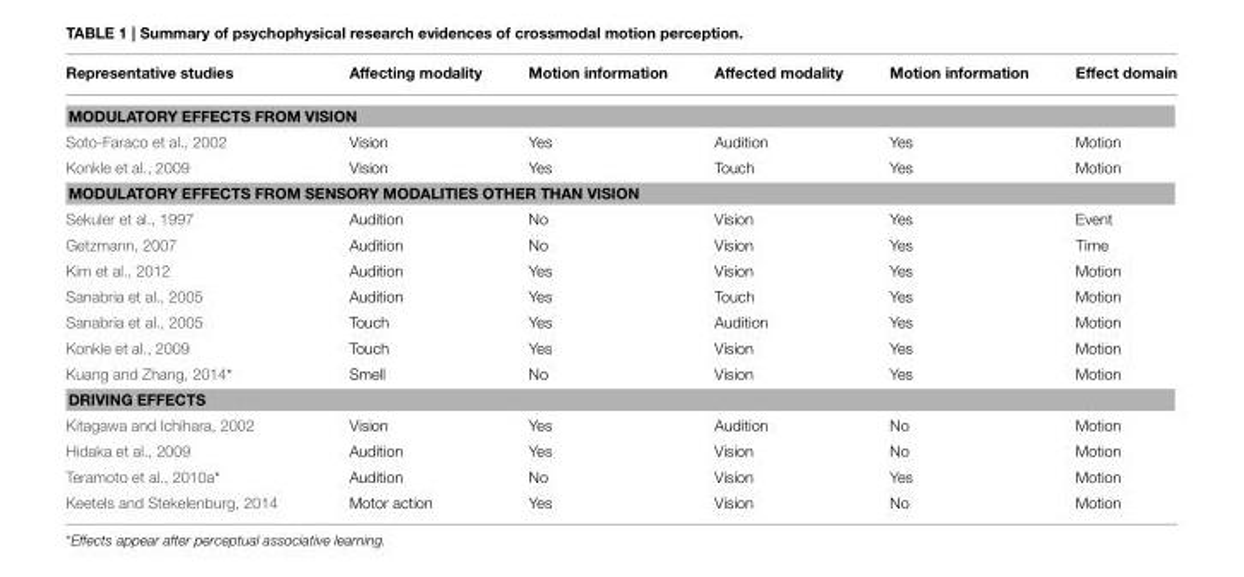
<table><thead><tr><td>Representative studies</td><td>Affecting modality</td><td>Motion information</td><td>Affected modality</td><td>Motion information</td><td>Effect domain</td></tr></thead><tbody><tr><td colspan="6">MODULATORY EFFECTS FROM VISION</td></tr><tr><td>Soto-Faraco et al., 2002</td><td>Vision</td><td>Yes</td><td>Audition</td><td>Yes</td><td>Motion</td></tr><tr><td>Konkle et al., 2009</td><td>Vision</td><td>Yes</td><td>Touch</td><td>Yes</td><td>Motion</td></tr><tr><td colspan="6">MODULATORY EFFECTS FROM SENSORY MODALITIES OTHER THAN VISION</td></tr><tr><td>Sekuler et al., 1997</td><td>Audition</td><td>No</td><td>Vision</td><td>Yes</td><td>Event</td></tr><tr><td>Getzmann, 2007</td><td>Audition</td><td>No</td><td>Vision</td><td>Yes</td><td>Time</td></tr><tr><td>Kim et al., 2012</td><td>Audition</td><td>Yes</td><td>Vision</td><td>Yes</td><td>Motion</td></tr><tr><td>Sanabria et al., 2005</td><td>Audition</td><td>Yes</td><td>Touch</td><td>Yes</td><td>Motion</td></tr><tr><td>Sanabria et al., 2005</td><td>Touch</td><td>Yes</td><td>Audition</td><td>Yes</td><td>Motion</td></tr><tr><td>Konkle et al., 2009</td><td>Touch</td><td>Yes</td><td>Vision</td><td>Yes</td><td>Motion</td></tr><tr><td>Kuang and Zhang, 2014*</td><td>Smell</td><td>No</td><td>Vision</td><td>Yes</td><td>Motion</td></tr><tr><td colspan="6">DRIVING EFFECTS</td></tr><tr><td>Kitagawa and Ichihara, 2002</td><td>Vision</td><td>Yes</td><td>Audition</td><td>No</td><td>Motion</td></tr><tr><td>Hidaka et al., 2009</td><td>Audition</td><td>Yes</td><td>Vision</td><td>No</td><td>Motion</td></tr><tr><td>Teramoto et al., 2010a*</td><td>Audition</td><td>No</td><td>Vision</td><td>Yes</td><td>Motion</td></tr><tr><td>Keetels and Stekelenburg, 2014</td><td>Motor action</td><td>Yes</td><td>Vision</td><td>No</td><td>Motion</td></tr></tbody></table>